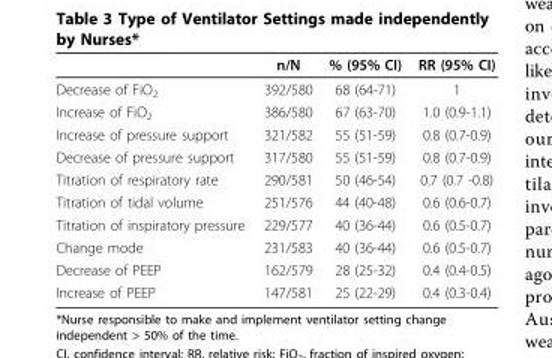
<table><thead><tr><td></td><td>n/N</td><td>% (95% CI)</td><td>RR (95% CI)</td></tr></thead><tbody><tr><td>Decrease of FiO<sub>2</sub></td><td>392/580</td><td>68 (64-71)</td><td>1</td></tr><tr><td>Increase of FiO<sub>2</sub></td><td>386/580</td><td>67 (63-70)</td><td>1.0 (0.9-1.1)</td></tr><tr><td>Increase of pressure support</td><td>321/582</td><td>55 (51-59)</td><td>0.8 (0.7-0.9)</td></tr><tr><td>Decrease of pressure support</td><td>317/580</td><td>55 (51-59)</td><td>0.8 (0.7-0.9)</td></tr><tr><td>Titration of respiratory rate</td><td>290/581</td><td>50 (46-54)</td><td>0.7 (0.7 -0.8)</td></tr><tr><td>Titration of tidal volume</td><td>251/576</td><td>44 (40-48)</td><td>0.6 (0.6-0.7)</td></tr><tr><td>Titration of inspiratory pressure</td><td>229/577</td><td>40 (36-44)</td><td>0.6 (0.5-0.7)</td></tr><tr><td>Change mode</td><td>231/583</td><td>40 (36-44)</td><td>0.6 (0.5-0.7)</td></tr><tr><td>Decrease of PEEP</td><td>162/579</td><td>28 (25-32)</td><td>0.4 (0.4-0.5)</td></tr><tr><td>Increase of PEEP</td><td>147/581</td><td>25 (22-29)</td><td>0.4 (0.3-0.4)</td></tr></tbody></table>